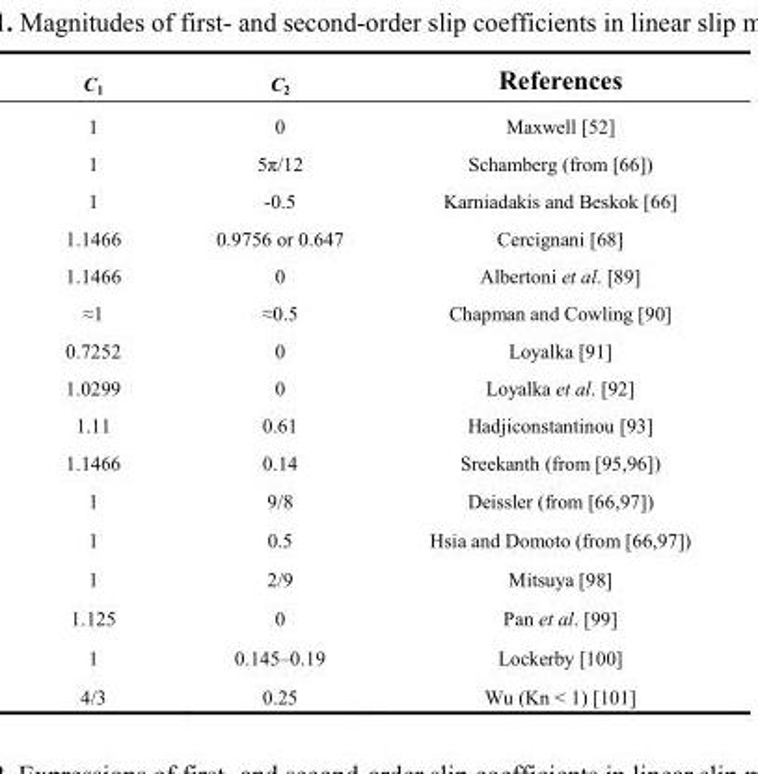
<table><thead><tr><td>C<sub>1</sub></td><td>C<sub>2</sub></td><td>References</td></tr></thead><tbody><tr><td>1</td><td>0</td><td>Maxwell [52]</td></tr><tr><td>1</td><td>5π/12</td><td>Schamberg (from [66])</td></tr><tr><td>1</td><td>-0.5</td><td>Karniadakis and Beskok [66]</td></tr><tr><td>1.1466</td><td>0.9756 or 0.647</td><td>Cercignani [68]</td></tr><tr><td>1.1466</td><td>0</td><td>Albertoni et al. [89]</td></tr><tr><td>≈1</td><td>≈0.5</td><td>Chapman and Cowling [90]</td></tr><tr><td>0.7252</td><td>0</td><td>Loyalka [91]</td></tr><tr><td>1.0299</td><td>0</td><td>Loyalka et al. [92]</td></tr><tr><td>1.11</td><td>0.61</td><td>Hadjiconstantinou [93]</td></tr><tr><td>1.1466</td><td>0.14</td><td>Sreekanth (from [95,96])</td></tr><tr><td>1</td><td>9/8</td><td>Deissler (from [66,97])</td></tr><tr><td>1</td><td>0.5</td><td>Hsia and Domoto (from [66,97])</td></tr><tr><td>1</td><td>2/9</td><td>Mitsuya [98]</td></tr><tr><td>1.125</td><td>0</td><td>Pan et al. [99]</td></tr><tr><td>1</td><td>0.145–0.19</td><td>Lockerby [100]</td></tr><tr><td>4/3</td><td>0.25</td><td>Wu (Kn &lt; 1) [101]</td></tr></tbody></table>